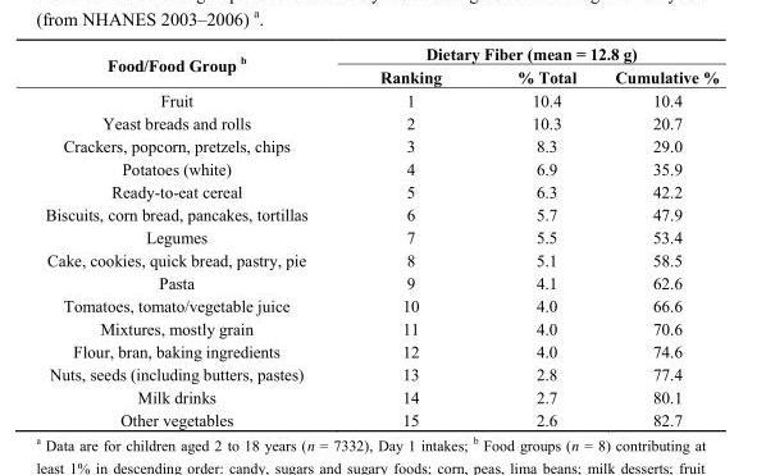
<table><thead><tr><td rowspan="2">Food/Food Group <sup>b</sup></td><td colspan="3">Dietary Fiber (mean = 12.8 g)</td></tr><tr><td>Ranking</td><td>% Total</td><td>Cumulative %</td></tr></thead><tbody><tr><td>Fruit</td><td>1</td><td>10.4</td><td>10.4</td></tr><tr><td>Yeast breads and rolls</td><td>2</td><td>10.3</td><td>20.7</td></tr><tr><td>Crackers, popcorn, pretzels, chips</td><td>3</td><td>8.3</td><td>29.0</td></tr><tr><td>Potatoes (white)</td><td>4</td><td>6.9</td><td>35.9</td></tr><tr><td>Ready-to-eat cereal</td><td>5</td><td>6.3</td><td>42.2</td></tr><tr><td>Biscuits, corn bread, pancakes, tortillas</td><td>6</td><td>5.7</td><td>47.9</td></tr><tr><td>Legumes</td><td>7</td><td>5.5</td><td>53.4</td></tr><tr><td>Cake, cookies, quick bread, pastry, pie</td><td>8</td><td>5.1</td><td>58.5</td></tr><tr><td>Pasta</td><td>9</td><td>4.1</td><td>62.6</td></tr><tr><td>Tomatoes, tomato/vegetable juice</td><td>10</td><td>4.0</td><td>66.6</td></tr><tr><td>Mixtures, mostly grain</td><td>11</td><td>4.0</td><td>70.6</td></tr><tr><td>Flour, bran, baking ingredients</td><td>12</td><td>4.0</td><td>74.6</td></tr><tr><td>Nuts, seeds (including butters, pastes)</td><td>13</td><td>2.8</td><td>77.4</td></tr><tr><td>Milk drinks</td><td>14</td><td>2.7</td><td>80.1</td></tr><tr><td>Other vegetables</td><td>15</td><td>2.6</td><td>82.7</td></tr></tbody></table>